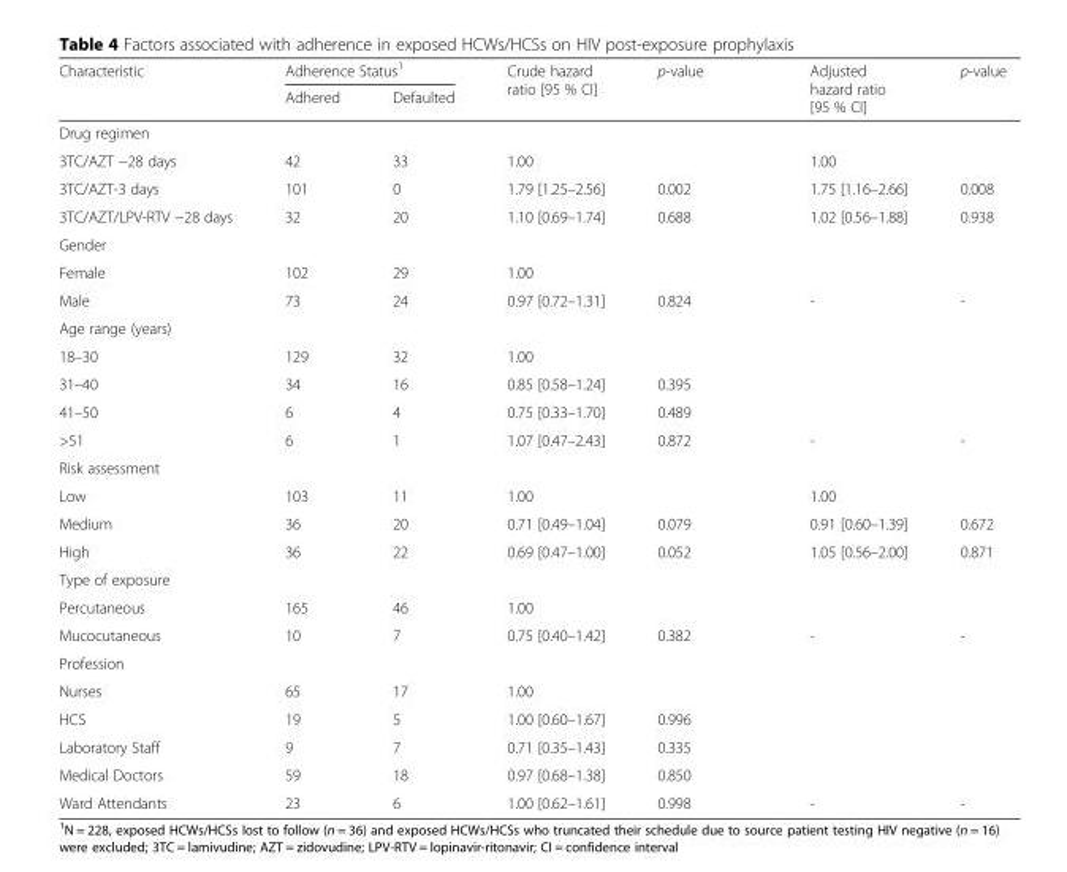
<table><thead><tr><td rowspan="2">Characteristic</td><td colspan="2">Adherence Status<sup>1</sup></td><td rowspan="2">Crude hazard ratio [95 % CI]</td><td rowspan="2">p-value</td><td rowspan="2">Adjusted hazard ratio [95 % CI]</td><td rowspan="2">p-value</td></tr><tr><td>Adhered</td><td>Defaulted</td></tr></thead><tbody><tr><td colspan="7">Drug regimen</td></tr><tr><td>3TC/AZT −28 days</td><td>42</td><td>33</td><td>1.00</td><td></td><td>1.00</td><td></td></tr><tr><td>3TC/AZT-3 days</td><td>101</td><td>0</td><td>1.79 [1.25–2.56]</td><td>0.002</td><td>1.75 [1.16–2.66]</td><td>0.008</td></tr><tr><td>3TC/AZT/LPV-RTV −28 days</td><td>32</td><td>20</td><td>1.10 [0.69–1.74]</td><td>0.688</td><td>1.02 [0.56–1.88]</td><td>0.938</td></tr><tr><td colspan="7">Gender</td></tr><tr><td>Female</td><td>102</td><td>29</td><td>1.00</td><td></td><td></td><td></td></tr><tr><td>Male</td><td>73</td><td>24</td><td>0.97 [0.72–1.31]</td><td>0.824</td><td>-</td><td>-</td></tr><tr><td colspan="7">Age range (years)</td></tr><tr><td>18–30</td><td>129</td><td>32</td><td>1.00</td><td></td><td></td><td></td></tr><tr><td>31–40</td><td>34</td><td>16</td><td>0.85 [0.58–1.24]</td><td>0.395</td><td></td><td></td></tr><tr><td>41–50</td><td>6</td><td>4</td><td>0.75 [0.33–1.70]</td><td>0.489</td><td></td><td></td></tr><tr><td>&gt;51</td><td>6</td><td>1</td><td>1.07 [0.47–2.43]</td><td>0.872</td><td>-</td><td>-</td></tr><tr><td colspan="7">Risk assessment</td></tr><tr><td>Low</td><td>103</td><td>11</td><td>1.00</td><td></td><td>1.00</td><td></td></tr><tr><td>Medium</td><td>36</td><td>20</td><td>0.71 [0.49–1.04]</td><td>0.079</td><td>0.91 [0.60–1.39]</td><td>0.672</td></tr><tr><td>High</td><td>36</td><td>22</td><td>0.69 [0.47–1.00]</td><td>0.052</td><td>1.05 [0.56–2.00]</td><td>0.871</td></tr><tr><td colspan="7">Type of exposure</td></tr><tr><td>Percutaneous</td><td>165</td><td>46</td><td>1.00</td><td></td><td></td><td></td></tr><tr><td>Mucocutaneous</td><td>10</td><td>7</td><td>0.75 [0.40–1.42]</td><td>0.382</td><td>-</td><td>-</td></tr><tr><td colspan="7">Profession</td></tr><tr><td>Nurses</td><td>65</td><td>17</td><td>1.00</td><td></td><td></td><td></td></tr><tr><td>HCS</td><td>19</td><td>5</td><td>1.00 [0.60–1.67]</td><td>0.996</td><td></td><td></td></tr><tr><td>Laboratory Staff</td><td>9</td><td>7</td><td>0.71 [0.35–1.43]</td><td>0.335</td><td></td><td></td></tr><tr><td>Medical Doctors</td><td>59</td><td>18</td><td>0.97 [0.68–1.38]</td><td>0.850</td><td></td><td></td></tr><tr><td>Ward Attendants</td><td>23</td><td>6</td><td>1.00 [0.62–1.61]</td><td>0.998</td><td>-</td><td>-</td></tr></tbody></table>